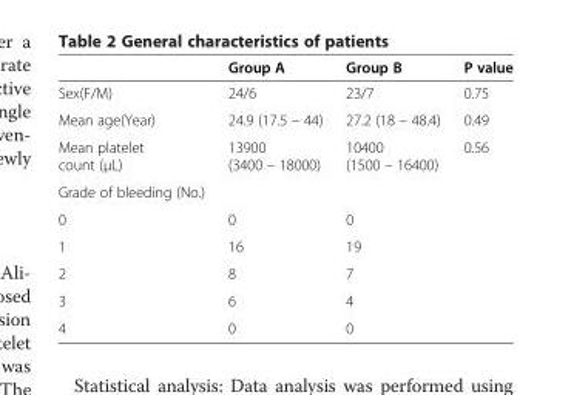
<table><thead><tr><td></td><td>Group A</td><td>Group B</td><td>P value</td></tr></thead><tbody><tr><td>Sex(F/M)</td><td>24/6</td><td>23/7</td><td>0.75</td></tr><tr><td>Mean age(Year)</td><td>24.9 (17.5 – 44)</td><td>27.2 (18 – 48.4)</td><td>0.49</td></tr><tr><td>Mean platelet count (μL)</td><td>13900 (3400 – 18000)</td><td>10400 (1500 – 16400)</td><td>0.56</td></tr><tr><td colspan="4">Grade of bleeding (No.)</td></tr><tr><td>0</td><td>0</td><td>0</td><td></td></tr><tr><td>1</td><td>16</td><td>19</td><td></td></tr><tr><td>2</td><td>8</td><td>7</td><td></td></tr><tr><td>3</td><td>6</td><td>4</td><td></td></tr><tr><td>4</td><td>0</td><td>0</td><td></td></tr></tbody></table>